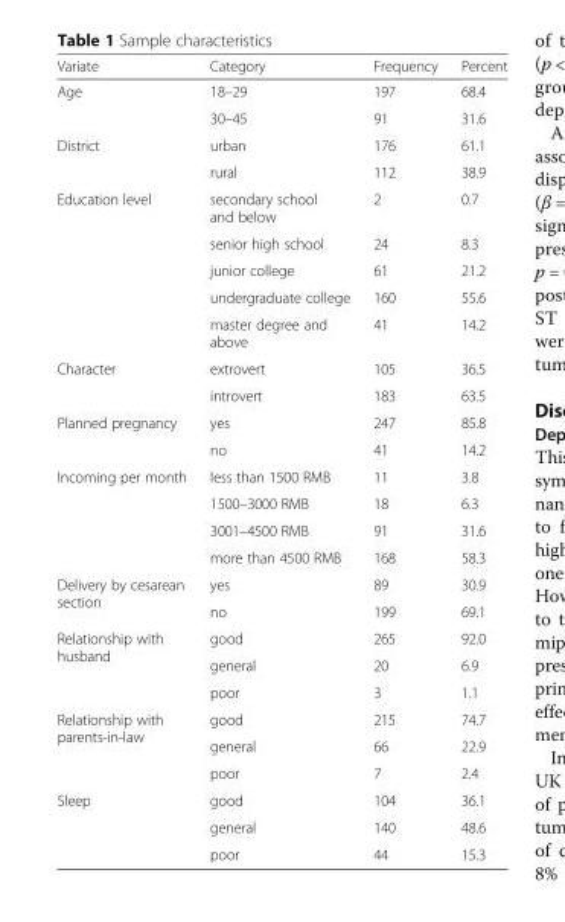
<table><thead><tr><td>Variate</td><td>Category</td><td>Frequency</td><td>Percent</td></tr></thead><tbody><tr><td rowspan="2">Age</td><td>18–29</td><td>197</td><td>68.4</td></tr><tr><td>30–45</td><td>91</td><td>31.6</td></tr><tr><td rowspan="2">District</td><td>urban</td><td>176</td><td>61.1</td></tr><tr><td>rural</td><td>112</td><td>38.9</td></tr><tr><td rowspan="5">Education level</td><td>secondary school and below</td><td>2</td><td>0.7</td></tr><tr><td>senior high school</td><td>24</td><td>8.3</td></tr><tr><td>junior college</td><td>61</td><td>21.2</td></tr><tr><td>undergraduate college</td><td>160</td><td>55.6</td></tr><tr><td>master degree and above</td><td>41</td><td>14.2</td></tr><tr><td rowspan="2">Character</td><td>extrovert</td><td>105</td><td>36.5</td></tr><tr><td>introvert</td><td>183</td><td>63.5</td></tr><tr><td rowspan="2">Planned pregnancy</td><td>yes</td><td>247</td><td>85.8</td></tr><tr><td>no</td><td>41</td><td>14.2</td></tr><tr><td rowspan="4">Incoming per month</td><td>less than 1500 RMB</td><td>11</td><td>3.8</td></tr><tr><td>1500–3000 RMB</td><td>18</td><td>6.3</td></tr><tr><td>3001–4500 RMB</td><td>91</td><td>31.6</td></tr><tr><td>more than 4500 RMB</td><td>168</td><td>58.3</td></tr><tr><td rowspan="2">Delivery by cesarean section</td><td>yes</td><td>89</td><td>30.9</td></tr><tr><td>no</td><td>199</td><td>69.1</td></tr><tr><td rowspan="3">Relationship with husband</td><td>good</td><td>265</td><td>92.0</td></tr><tr><td>general</td><td>20</td><td>6.9</td></tr><tr><td>poor</td><td>3</td><td>1.1</td></tr><tr><td rowspan="3">Relationship with parents-in-law</td><td>good</td><td>215</td><td>74.7</td></tr><tr><td>general</td><td>66</td><td>22.9</td></tr><tr><td>poor</td><td>7</td><td>2.4</td></tr><tr><td rowspan="3">Sleep</td><td>good</td><td>104</td><td>36.1</td></tr><tr><td>general</td><td>140</td><td>48.6</td></tr><tr><td>poor</td><td>44</td><td>15.3</td></tr></tbody></table>